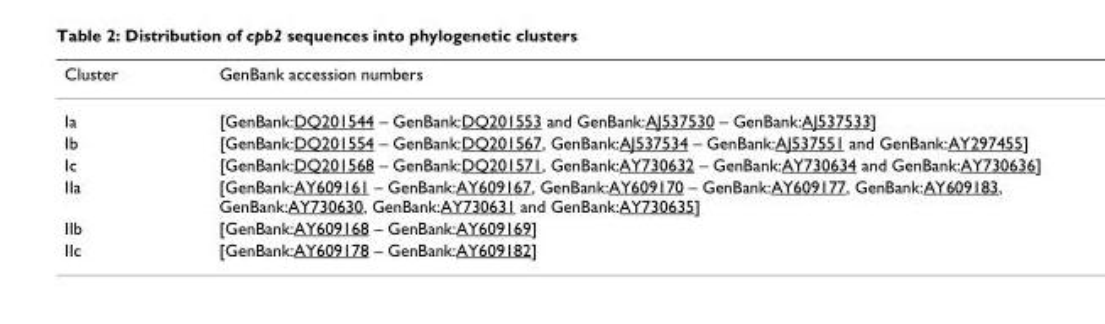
<table><thead><tr><td>Cluster</td><td>GenBank accession numbers</td></tr></thead><tbody><tr><td>Ia</td><td>[GenBank:DQ201544 – GenBank:DQ201553 and GenBank:AJ537530 – GenBank:AJ537533]</td></tr><tr><td>Ib</td><td>[GenBank:DQ201554 – GenBank:DQ201567, GenBank:AJ537534 – GenBank:AJ537551 and GenBank:AY297455]</td></tr><tr><td>Ic</td><td>[GenBank:DQ201568 – GenBank:DQ201571, GenBank:AY730632 – GenBank:AY730634 and GenBank:AY730636]</td></tr><tr><td>IIa</td><td>[GenBank:AY609161 – GenBank:AY609167, GenBank:AY609170 – GenBank:AY609177, GenBank:AY609183, GenBank:AY730630, GenBank:AY730631 and GenBank:AY730635]</td></tr><tr><td>IIb</td><td>[GenBank:AY609168 – GenBank:AY609169]</td></tr><tr><td>IIc</td><td>[GenBank:AY609178 – GenBank:AY609182]</td></tr></tbody></table>